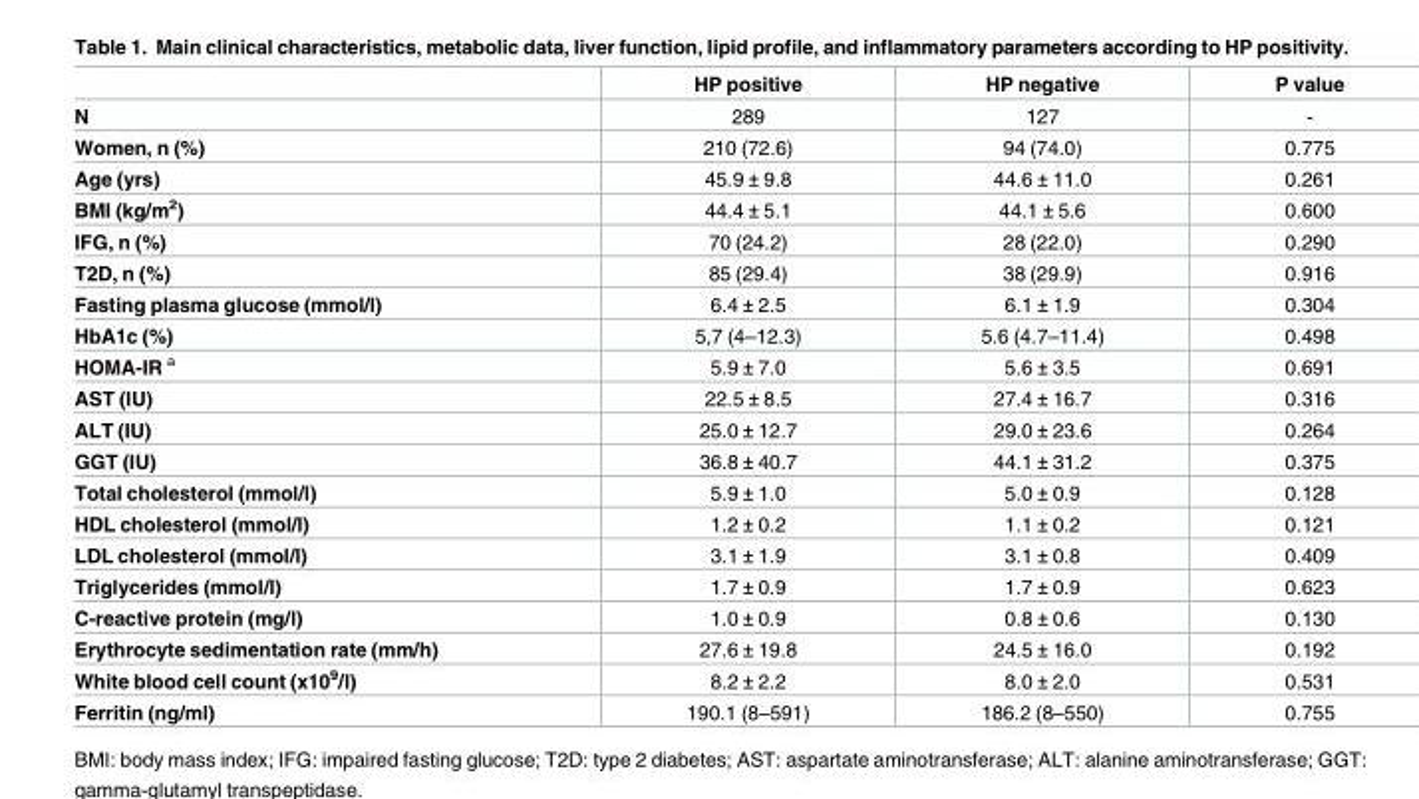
<table><thead><tr><td></td><td>HP positive</td><td>HP negative</td><td>P value</td></tr></thead><tbody><tr><td>N</td><td>289</td><td>127</td><td>-</td></tr><tr><td>Women, n (%)</td><td>210 (72.6)</td><td>94 (74.0)</td><td>0.775</td></tr><tr><td>Age (yrs)</td><td>45.9 ± 9.8</td><td>44.6 ± 11.0</td><td>0.261</td></tr><tr><td>BMI (kg/m<sup>2</sup>)</td><td>44.4 ± 5.1</td><td>44.1 ± 5.6</td><td>0.600</td></tr><tr><td>IFG, n (%)</td><td>70 (24.2)</td><td>28 (22.0)</td><td>0.290</td></tr><tr><td>T2D, n (%)</td><td>85 (29.4)</td><td>38 (29.9)</td><td>0.916</td></tr><tr><td>Fasting plasma glucose (mmol/l)</td><td>6.4 ± 2.5</td><td>6.1 ± 1.9</td><td>0.304</td></tr><tr><td>HbA1c (%)</td><td>5,7 (4–12.3)</td><td>5.6 (4.7–11.4)</td><td>0.498</td></tr><tr><td>HOMA-IR <sup>a</sup></td><td>5.9 ± 7.0</td><td>5.6 ± 3.5</td><td>0.691</td></tr><tr><td>AST (IU)</td><td>22.5 ± 8.5</td><td>27.4 ± 16.7</td><td>0.316</td></tr><tr><td>ALT (IU)</td><td>25.0 ± 12.7</td><td>29.0 ± 23.6</td><td>0.264</td></tr><tr><td>GGT (IU)</td><td>36.8 ± 40.7</td><td>44.1 ± 31.2</td><td>0.375</td></tr><tr><td>Total cholesterol (mmol/l)</td><td>5.9 ± 1.0</td><td>5.0 ± 0.9</td><td>0.128</td></tr><tr><td>HDL cholesterol (mmol/l)</td><td>1.2 ± 0.2</td><td>1.1 ± 0.2</td><td>0.121</td></tr><tr><td>LDL cholesterol (mmol/l)</td><td>3.1 ± 1.9</td><td>3.1 ± 0.8</td><td>0.409</td></tr><tr><td>Triglycerides (mmol/l)</td><td>1.7 ± 0.9</td><td>1.7 ± 0.9</td><td>0.623</td></tr><tr><td>C-reactive protein (mg/l)</td><td>1.0 ± 0.9</td><td>0.8 ± 0.6</td><td>0.130</td></tr><tr><td>Erythrocyte sedimentation rate (mm/h)</td><td>27.6 ± 19.8</td><td>24.5 ± 16.0</td><td>0.192</td></tr><tr><td>White blood cell count (x10<sup>9</sup>/l)</td><td>8.2 ± 2.2</td><td>8.0 ± 2.0</td><td>0.531</td></tr><tr><td>Ferritin (ng/ml)</td><td>190.1 (8–591)</td><td>186.2 (8–550)</td><td>0.755</td></tr></tbody></table>